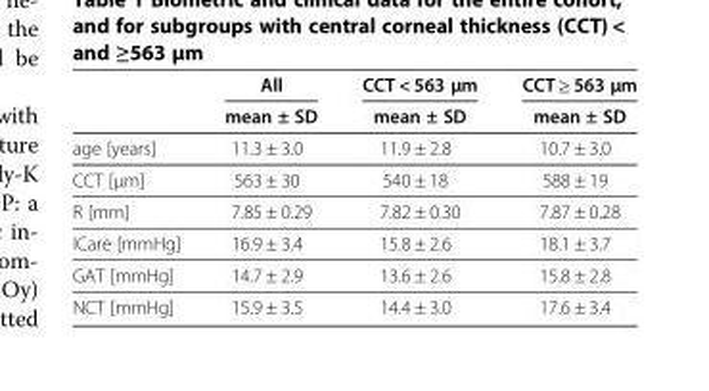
<table><thead><tr><td rowspan="2"></td><td rowspan="2">All mean ± SD</td><td rowspan="2">CCT &lt; 563 μm mean ± SD</td><td rowspan="2">CCT ≥ 563 μm mean ± SD</td></tr><tr></tr></thead><tbody><tr><td>age [years]</td><td>11.3 ± 3.0</td><td>11.9 ± 2.8</td><td>10.7 ± 3.0</td></tr><tr><td>CCT [μm]</td><td>563 ± 30</td><td>540 ± 18</td><td>588 ± 19</td></tr><tr><td>R [mm]</td><td>7.85 ± 0.29</td><td>7.82 ± 0.30</td><td>7.87 ± 0.28</td></tr><tr><td>ICare [mmHg]</td><td>16.9 ± 3.4</td><td>15.8 ± 2.6</td><td>18.1 ± 3.7</td></tr><tr><td>GAT [mmHg]</td><td>14.7 ± 2.9</td><td>13.6 ± 2.6</td><td>15.8 ± 2.8</td></tr><tr><td>NCT [mmHg]</td><td>15.9 ± 3.5</td><td>14.4 ± 3.0</td><td>17.6 ± 3.4</td></tr></tbody></table>